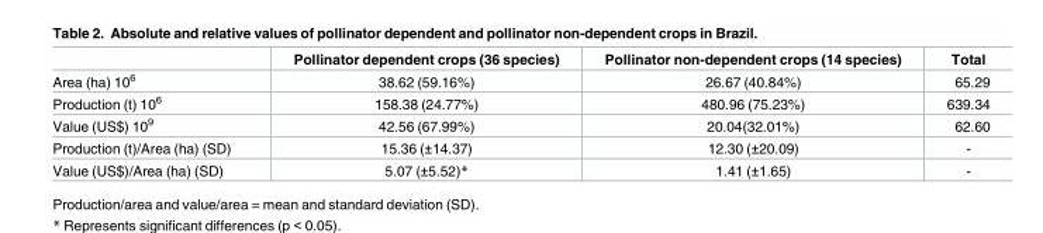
<table><thead><tr><td></td><td>Pollinator dependent crops (36 species)</td><td>Pollinator non-dependent crops (14 species)</td><td>Total</td></tr></thead><tbody><tr><td>Area (ha) 10<sup>6</sup></td><td>38.62 (59.16%)</td><td>26.67 (40.84%)</td><td>65.29</td></tr><tr><td>Production (t) 10<sup>6</sup></td><td>158.38 (24.77%)</td><td>480.96 (75.23%)</td><td>639.34</td></tr><tr><td>Value (US$) 10<sup>9</sup></td><td>42.56 (67.99%)</td><td>20.04(32.01%)</td><td>62.60</td></tr><tr><td>Production (t)/Area (ha) (SD)</td><td>15.36 (±14.37)</td><td>12.30 (±20.09)</td><td>-</td></tr><tr><td>Value (US$)/Area (ha) (SD)</td><td>5.07 (±5.52)*</td><td>1.41 (±1.65)</td><td>-</td></tr></tbody></table>